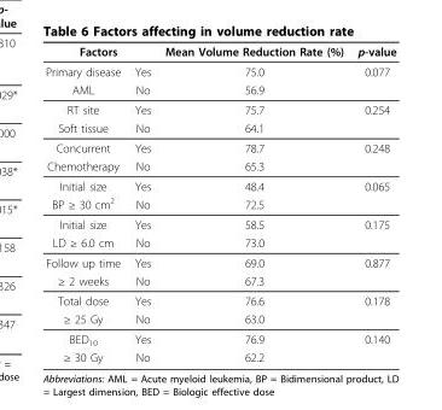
<table><thead><tr><td colspan="2">Factors</td><td rowspan="2">Mean Volume Reduction Rate (%) 75.0</td><td rowspan="2">p-value 0.077</td></tr><tr><td>Primary disease</td><td>Yes</td></tr></thead><tbody><tr><td>AML</td><td>No</td><td>56.9</td><td></td></tr><tr><td>RT site</td><td>Yes</td><td>75.7</td><td>0.254</td></tr><tr><td>Soft tissue</td><td>No</td><td>64.1</td><td></td></tr><tr><td>Concurrent</td><td>Yes</td><td>78.7</td><td>0.248</td></tr><tr><td>Chemotherapy</td><td>No</td><td>65.3</td><td></td></tr><tr><td>Initial size</td><td>Yes</td><td>48.4</td><td>0.065</td></tr><tr><td>BP ≥ 30 cm<sup>2</sup></td><td>No</td><td>72.5</td><td></td></tr><tr><td>Initial size</td><td>Yes</td><td>58.5</td><td>0.175</td></tr><tr><td>LD ≥ 6.0 cm</td><td>No</td><td>73.0</td><td></td></tr><tr><td>Follow up time</td><td>Yes</td><td>69.0</td><td>0.877</td></tr><tr><td>≥ 2 weeks</td><td>No</td><td>67.3</td><td></td></tr><tr><td>Total dose</td><td>Yes</td><td>76.6</td><td>0.178</td></tr><tr><td>≥ 25 Gy</td><td>No</td><td>63.0</td><td></td></tr><tr><td>BED<sub>10</sub></td><td>Yes</td><td>76.9</td><td>0.140</td></tr><tr><td>≥ 30 Gy</td><td>No</td><td>62.2</td><td></td></tr></tbody></table>